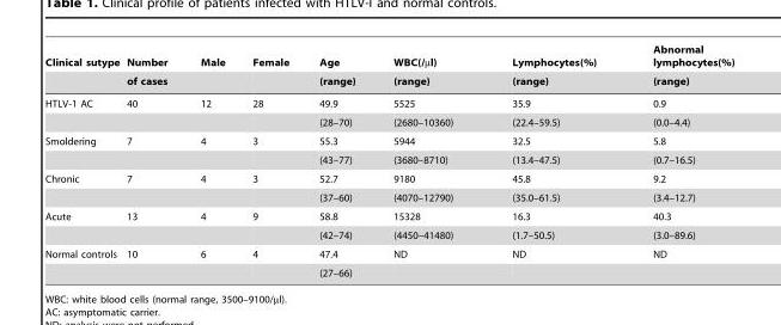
<table><thead><tr><td rowspan="2">Clinical sutype</td><td rowspan="2">Number of cases</td><td rowspan="2">Male</td><td rowspan="2">Female</td><td rowspan="2">Age (range)</td><td rowspan="2">WBC(/µl) (range)</td><td rowspan="2">Lymphocytes(%) (range)</td><td rowspan="2">Abnormal lymphocytes(%) (range)</td></tr><tr></tr></thead><tbody><tr><td rowspan="2">HTLV-1 AC</td><td>40</td><td>12</td><td>28</td><td>49.9</td><td>5525</td><td>35.9</td><td>0.9</td></tr><tr><td></td><td></td><td></td><td>(28–70)</td><td>(2680–10360)</td><td>(22.4–59.5)</td><td>(0.0–4.4)</td></tr><tr><td rowspan="2">Smoldering</td><td>7</td><td>4</td><td>3</td><td>55.3</td><td>5944</td><td>32.5</td><td>5.8</td></tr><tr><td></td><td></td><td></td><td>(43–77)</td><td>(3680–8710)</td><td>(13.4–47.5)</td><td>(0.7–16.5)</td></tr><tr><td rowspan="2">Chronic</td><td>7</td><td>4</td><td>3</td><td>52.7</td><td>9180</td><td>45.8</td><td>9.2</td></tr><tr><td></td><td></td><td></td><td>(37–60)</td><td>(4070–12790)</td><td>(35.0–61.5)</td><td>(3.4–12.7)</td></tr><tr><td rowspan="2">Acute</td><td>13</td><td>4</td><td>9</td><td>58.8</td><td>15328</td><td>16.3</td><td>40.3</td></tr><tr><td></td><td></td><td></td><td>(42–74)</td><td>(4450–41480)</td><td>(1.7–50.5)</td><td>(3.0–89.6)</td></tr><tr><td rowspan="2">Normal controls</td><td>10</td><td>6</td><td>4</td><td>47.4</td><td>ND</td><td>ND</td><td>ND</td></tr><tr><td></td><td></td><td></td><td>(27–66)</td><td></td><td></td><td></td></tr></tbody></table>